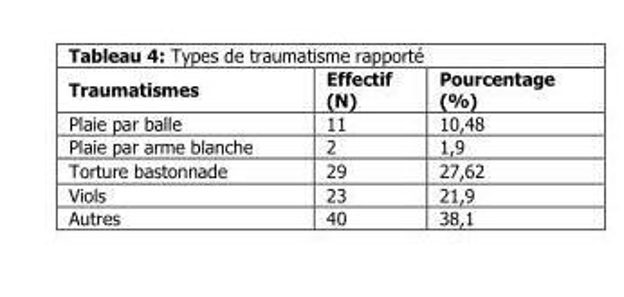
<table><thead><tr><td>Traumatismes</td><td>Effectif (N)</td><td>Pourcentage (%)</td></tr></thead><tbody><tr><td>Plaie par balle</td><td>11</td><td>10,48</td></tr><tr><td>Plaie par arme blanche</td><td>2</td><td>1,9</td></tr><tr><td>Torture bastonnade</td><td>29</td><td>27,62</td></tr><tr><td>Viols</td><td>23</td><td>21,9</td></tr><tr><td>Autres</td><td>40</td><td>38,1</td></tr></tbody></table>